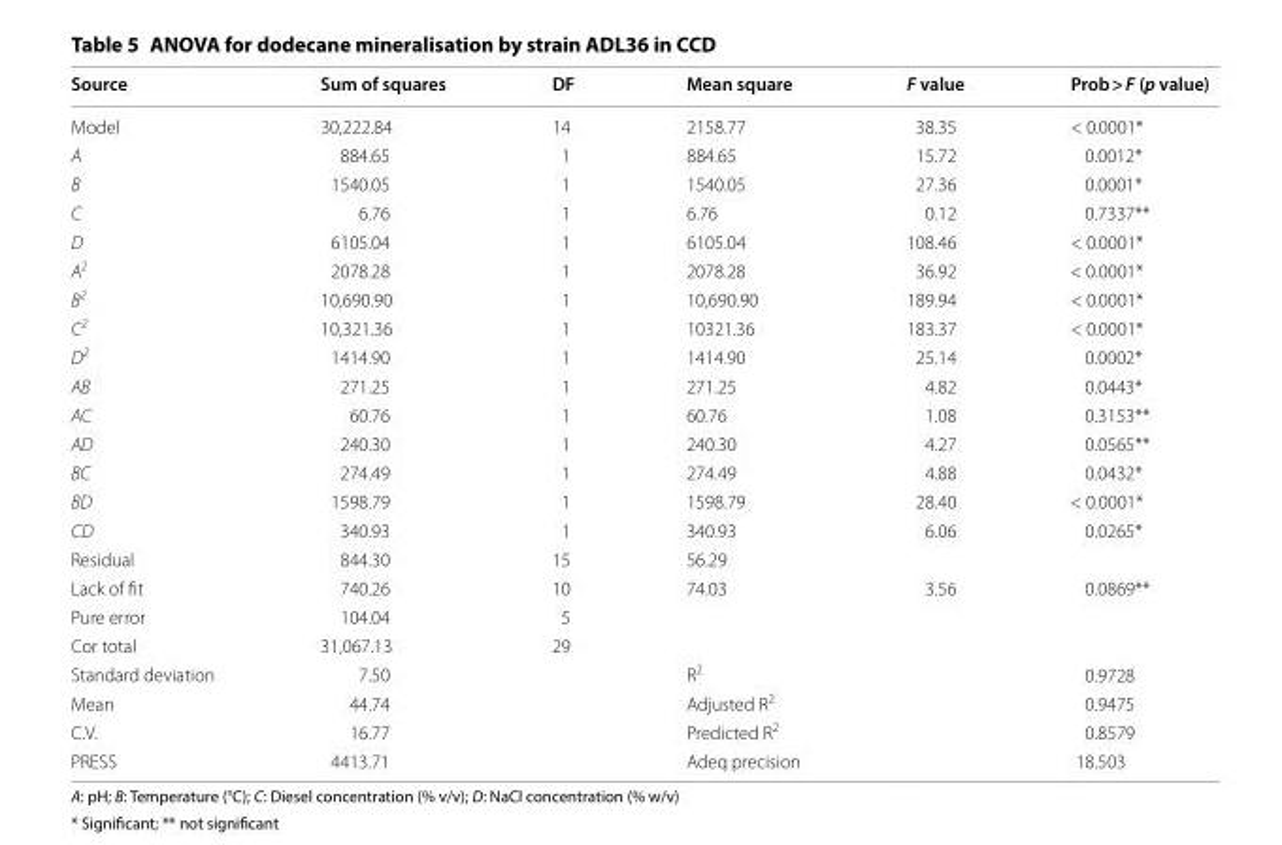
<table><thead><tr><td>Source</td><td>Sum of squares</td><td>DF</td><td>Mean square</td><td>F value</td><td>Prob &gt; F (p value)</td></tr></thead><tbody><tr><td>Model</td><td>30,222.84</td><td>14</td><td>2158.77</td><td>38.35</td><td>&lt; 0.0001*</td></tr><tr><td>A</td><td>884.65</td><td>1</td><td>884.65</td><td>15.72</td><td>0.0012*</td></tr><tr><td>B</td><td>1540.05</td><td>1</td><td>1540.05</td><td>27.36</td><td>0.0001*</td></tr><tr><td>C</td><td>6.76</td><td>1</td><td>6.76</td><td>0.12</td><td>0.7337**</td></tr><tr><td>D</td><td>6105.04</td><td>1</td><td>6105.04</td><td>108.46</td><td>&lt; 0.0001*</td></tr><tr><td>A<sup>2</sup></td><td>2078.28</td><td>1</td><td>2078.28</td><td>36.92</td><td>&lt; 0.0001*</td></tr><tr><td>B<sup>2</sup></td><td>10,690.90</td><td>1</td><td>10,690.90</td><td>189.94</td><td>&lt; 0.0001*</td></tr><tr><td>C<sup>2</sup></td><td>10,321.36</td><td>1</td><td>10321.36</td><td>183.37</td><td>&lt; 0.0001*</td></tr><tr><td>D<sup>2</sup></td><td>1414.90</td><td>1</td><td>1414.90</td><td>25.14</td><td>0.0002*</td></tr><tr><td>AB</td><td>271.25</td><td>1</td><td>271.25</td><td>4.82</td><td>0.0443*</td></tr><tr><td>AC</td><td>60.76</td><td>1</td><td>60.76</td><td>1.08</td><td>0.3153**</td></tr><tr><td>AD</td><td>240.30</td><td>1</td><td>240.30</td><td>4.27</td><td>0.0565**</td></tr><tr><td>BC</td><td>274.49</td><td>1</td><td>274.49</td><td>4.88</td><td>0.0432*</td></tr><tr><td>BD</td><td>1598.79</td><td>1</td><td>1598.79</td><td>28.40</td><td>&lt; 0.0001*</td></tr><tr><td>CD</td><td>340.93</td><td>1</td><td>340.93</td><td>6.06</td><td>0.0265*</td></tr><tr><td>Residual</td><td>844.30</td><td>15</td><td>56.29</td><td></td><td></td></tr><tr><td>Lack of fit</td><td>740.26</td><td>10</td><td>74.03</td><td>3.56</td><td>0.0869**</td></tr><tr><td>Pure error</td><td>104.04</td><td>5</td><td></td><td></td><td></td></tr><tr><td>Cor total</td><td>31,067.13</td><td>29</td><td></td><td></td><td></td></tr><tr><td>Standard deviation</td><td>7.50</td><td></td><td colspan="2">R<sup>2</sup></td><td>0.9728</td></tr><tr><td>Mean</td><td>44.74</td><td></td><td colspan="2">Adjusted R<sup>2</sup></td><td>0.9475</td></tr><tr><td>C.V.</td><td>16.77</td><td></td><td colspan="2">Predicted R<sup>2</sup></td><td>0.8579</td></tr><tr><td>PRESS</td><td>4413.71</td><td></td><td colspan="2">Adeq precision</td><td>18.503</td></tr></tbody></table>